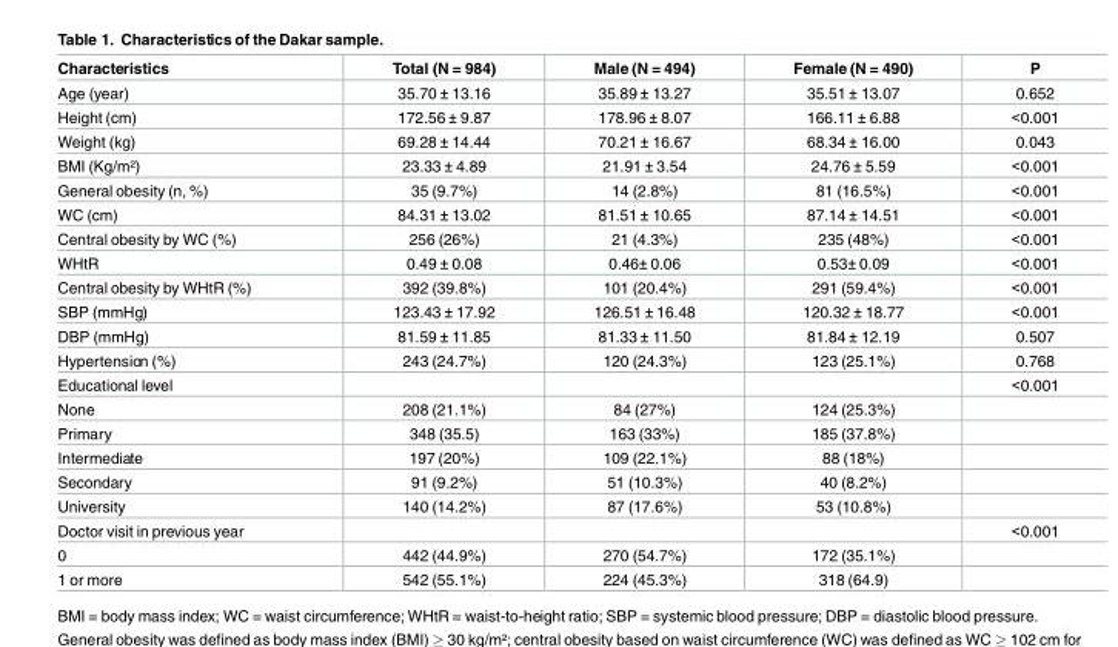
<table><thead><tr><td>Characteristics</td><td>Total (N = 984)</td><td>Male (N = 494)</td><td>Female (N = 490)</td><td>P</td></tr></thead><tbody><tr><td>Age (year)</td><td>35.70 ± 13.16</td><td>35.89 ± 13.27</td><td>35.51 ± 13.07</td><td>0.652</td></tr><tr><td>Height (cm)</td><td>172.56 ± 9.87</td><td>178.96 ± 8.07</td><td>166.11 ± 6.88</td><td>&lt;0.001</td></tr><tr><td>Weight (kg)</td><td>69.28 ± 14.44</td><td>70.21 ± 16.67</td><td>68.34 ± 16.00</td><td>0.043</td></tr><tr><td>BMI (Kg/m²)</td><td>23.33 ± 4.89</td><td>21.91 ± 3.54</td><td>24.76 ± 5.59</td><td>&lt;0.001</td></tr><tr><td>General obesity (n, %)</td><td>35 (9.7%)</td><td>14 (2.8%)</td><td>81 (16.5%)</td><td>&lt;0.001</td></tr><tr><td>WC (cm)</td><td>84.31 ± 13.02</td><td>81.51 ± 10.65</td><td>87.14 ± 14.51</td><td>&lt;0.001</td></tr><tr><td>Central obesity by WC (%)</td><td>256 (26%)</td><td>21 (4.3%)</td><td>235 (48%)</td><td>&lt;0.001</td></tr><tr><td>WHtR</td><td>0.49 ± 0.08</td><td>0.46± 0.06</td><td>0.53± 0.09</td><td>&lt;0.001</td></tr><tr><td>Central obesity by WHtR (%)</td><td>392 (39.8%)</td><td>101 (20.4%)</td><td>291 (59.4%)</td><td>&lt;0.001</td></tr><tr><td>SBP (mmHg)</td><td>123.43 ± 17.92</td><td>126.51 ± 16.48</td><td>120.32 ± 18.77</td><td>&lt;0.001</td></tr><tr><td>DBP (mmHg)</td><td>81.59 ± 11.85</td><td>81.33 ± 11.50</td><td>81.84 ± 12.19</td><td>0.507</td></tr><tr><td>Hypertension (%)</td><td>243 (24.7%)</td><td>120 (24.3%)</td><td>123 (25.1%)</td><td>0.768</td></tr><tr><td>Educational level</td><td></td><td></td><td></td><td>&lt;0.001</td></tr><tr><td>None</td><td>208 (21.1%)</td><td>84 (27%)</td><td>124 (25.3%)</td><td></td></tr><tr><td>Primary</td><td>348 (35.5)</td><td>163 (33%)</td><td>185 (37.8%)</td><td></td></tr><tr><td>Intermediate</td><td>197 (20%)</td><td>109 (22.1%)</td><td>88 (18%)</td><td></td></tr><tr><td>Secondary</td><td>91 (9.2%)</td><td>51 (10.3%)</td><td>40 (8.2%)</td><td></td></tr><tr><td>University</td><td>140 (14.2%)</td><td>87 (17.6%)</td><td>53 (10.8%)</td><td></td></tr><tr><td>Doctor visit in previous year</td><td></td><td></td><td></td><td>&lt;0.001</td></tr><tr><td>0</td><td>442 (44.9%)</td><td>270 (54.7%)</td><td>172 (35.1%)</td><td></td></tr><tr><td>1 or more</td><td>542 (55.1%)</td><td>224 (45.3%)</td><td>318 (64.9)</td><td></td></tr></tbody></table>